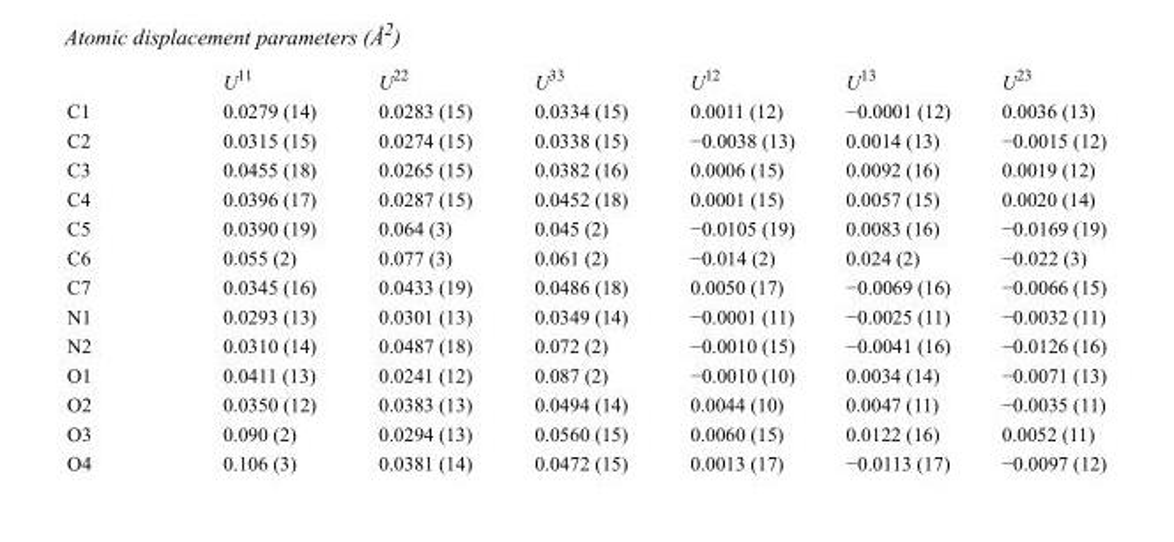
<table><thead><tr><td></td><td>U<sup>11</sup></td><td>U<sup>22</sup></td><td>U<sup>33</sup></td><td>U<sup>12</sup></td><td>U<sup>13</sup></td><td>U<sup>23</sup></td></tr></thead><tbody><tr><td>C1</td><td>0.0279 (14)</td><td>0.0283 (15)</td><td>0.0334 (15)</td><td>0.0011 (12)</td><td>−0.0001 (12)</td><td>0.0036 (13)</td></tr><tr><td>C2</td><td>0.0315 (15)</td><td>0.0274 (15)</td><td>0.0338 (15)</td><td>−0.0038 (13)</td><td>0.0014 (13)</td><td>−0.0015 (12)</td></tr><tr><td>C3</td><td>0.0455 (18)</td><td>0.0265 (15)</td><td>0.0382 (16)</td><td>0.0006 (15)</td><td>0.0092 (16)</td><td>0.0019 (12)</td></tr><tr><td>C4</td><td>0.0396 (17)</td><td>0.0287 (15)</td><td>0.0452 (18)</td><td>0.0001 (15)</td><td>0.0057 (15)</td><td>0.0020 (14)</td></tr><tr><td>C5</td><td>0.0390 (19)</td><td>0.064 (3)</td><td>0.045 (2)</td><td>−0.0105 (19)</td><td>0.0083 (16)</td><td>−0.0169 (19)</td></tr><tr><td>C6</td><td>0.055 (2)</td><td>0.077 (3)</td><td>0.061 (2)</td><td>−0.014 (2)</td><td>0.024 (2)</td><td>−0.022 (3)</td></tr><tr><td>C7</td><td>0.0345 (16)</td><td>0.0433 (19)</td><td>0.0486 (18)</td><td>0.0050 (17)</td><td>−0.0069 (16)</td><td>−0.0066 (15)</td></tr><tr><td>N1</td><td>0.0293 (13)</td><td>0.0301 (13)</td><td>0.0349 (14)</td><td>−0.0001 (11)</td><td>−0.0025 (11)</td><td>−0.0032 (11)</td></tr><tr><td>N2</td><td>0.0310 (14)</td><td>0.0487 (18)</td><td>0.072 (2)</td><td>−0.0010 (15)</td><td>−0.0041 (16)</td><td>−0.0126 (16)</td></tr><tr><td>O1</td><td>0.0411 (13)</td><td>0.0241 (12)</td><td>0.087 (2)</td><td>−0.0010 (10)</td><td>0.0034 (14)</td><td>−0.0071 (13)</td></tr><tr><td>O2</td><td>0.0350 (12)</td><td>0.0383 (13)</td><td>0.0494 (14)</td><td>0.0044 (10)</td><td>0.0047 (11)</td><td>−0.0035 (11)</td></tr><tr><td>O3</td><td>0.090 (2)</td><td>0.0294 (13)</td><td>0.0560 (15)</td><td>0.0060 (15)</td><td>0.0122 (16)</td><td>0.0052 (11)</td></tr><tr><td>O4</td><td>0.106 (3)</td><td>0.0381 (14)</td><td>0.0472 (15)</td><td>0.0013 (17)</td><td>−0.0113 (17)</td><td>−0.0097 (12)</td></tr></tbody></table>